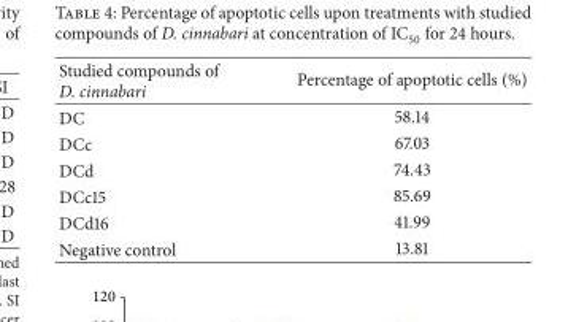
<table><thead><tr><td>Studied compounds of D. cinnabari</td><td>Percentage of apoptotic cells (%)</td></tr></thead><tbody><tr><td>DC</td><td>58.14</td></tr><tr><td>DCc</td><td>67.03</td></tr><tr><td>DCd</td><td>74.43</td></tr><tr><td>DCc15</td><td>85.69</td></tr><tr><td>DCd16</td><td>41.99</td></tr><tr><td>Negative control</td><td>13.81</td></tr></tbody></table>